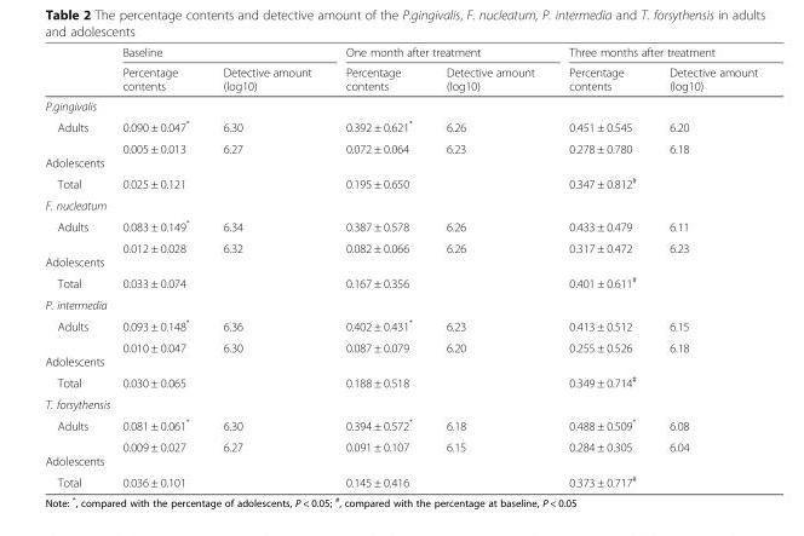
<table><thead><tr><td rowspan="2"></td><td colspan="2">Baseline</td><td colspan="2">One month after treatment</td><td colspan="2">Three months after treatment</td></tr><tr><td>Percentage contents</td><td>Detective amount (log10)</td><td>Percentage contents</td><td>Detective amount (log10)</td><td>Percentage contents</td><td>Detective amount (log10)</td></tr></thead><tbody><tr><td colspan="7">P.gingivalis</td></tr><tr><td>Adults</td><td>0.090 ± 0.047*</td><td>6.30</td><td>0.392 ± 0.621*</td><td>6.26</td><td>0.451 ± 0.545</td><td>6.20</td></tr><tr><td>Adolescents</td><td>0.005 ± 0.013</td><td>6.27</td><td>0.072 ± 0.064</td><td>6.23</td><td>0.278 ± 0.780</td><td>6.18</td></tr><tr><td>Total</td><td>0.025 ± 0.121</td><td></td><td>0.195 ± 0.650</td><td></td><td>0.347 ± 0.812<sup>#</sup></td><td></td></tr><tr><td colspan="7">F. nucleatum</td></tr><tr><td>Adults</td><td>0.083 ± 0.149*</td><td>6.34</td><td>0.387 ± 0.578</td><td>6.26</td><td>0.433 ± 0.479</td><td>6.11</td></tr><tr><td>Adolescents</td><td>0.012 ± 0.028</td><td>6.32</td><td>0.082 ± 0.066</td><td>6.26</td><td>0.317 ± 0.472</td><td>6.23</td></tr><tr><td>Total</td><td>0.033 ± 0.074</td><td></td><td>0.167 ± 0.356</td><td></td><td>0.401 ± 0.611<sup>#</sup></td><td></td></tr><tr><td colspan="7">P. intermedia</td></tr><tr><td>Adults</td><td>0.093 ± 0.148*</td><td>6.36</td><td>0.402 ± 0.431*</td><td>6.23</td><td>0.413 ± 0.512</td><td>6.15</td></tr><tr><td>Adolescents</td><td>0.010 ± 0.047</td><td>6.30</td><td>0.087 ± 0.079</td><td>6.20</td><td>0.255 ± 0.526</td><td>6.18</td></tr><tr><td>Total</td><td>0.030 ± 0.065</td><td></td><td>0.188 ± 0.518</td><td></td><td>0.349 ± 0.714<sup>#</sup></td><td></td></tr><tr><td colspan="7">T. forsythensis</td></tr><tr><td>Adults</td><td>0.081 ± 0.061*</td><td>6.30</td><td>0.394 ± 0.572*</td><td>6.18</td><td>0.488 ± 0.509*</td><td>6.08</td></tr><tr><td>Adolescents</td><td>0.009 ± 0.027</td><td>6.27</td><td>0.091 ± 0.107</td><td>6.15</td><td>0.284 ± 0.305</td><td>6.04</td></tr><tr><td>Total</td><td>0.036 ± 0.101</td><td></td><td>0.145 ± 0.416</td><td></td><td>0.373 ± 0.717<sup>#</sup></td><td></td></tr></tbody></table>